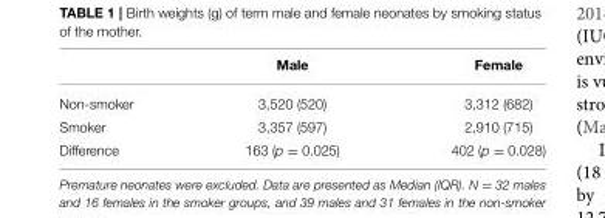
<table><thead><tr><td></td><td>Male</td><td>Female</td></tr></thead><tbody><tr><td>Non-smoker</td><td>3,520 (520)</td><td>3,312 (682)</td></tr><tr><td>Smoker</td><td>3,357 (597)</td><td>2,910 (715)</td></tr><tr><td>Difference</td><td>163 (p = 0.025)</td><td>402 (p = 0.028)</td></tr></tbody></table>